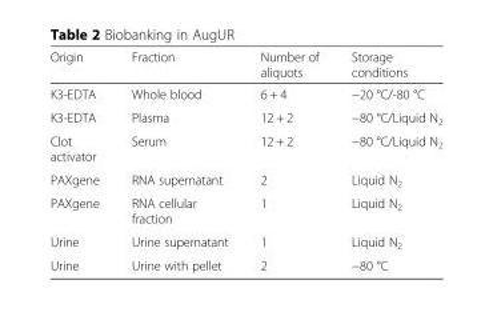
<table><thead><tr><td>Origin</td><td>Fraction</td><td>Number of aliquots</td><td>Storage conditions</td></tr></thead><tbody><tr><td>K3-EDTA</td><td>Whole blood</td><td>6 + 4</td><td>−20 °C/-80 °C</td></tr><tr><td>K3-EDTA</td><td>Plasma</td><td>12 + 2</td><td>−80 °C/Liquid N<sub>2</sub></td></tr><tr><td>Clot activator</td><td>Serum</td><td>12 + 2</td><td>−80 °C/Liquid N<sub>2</sub></td></tr><tr><td>PAXgene</td><td>RNA supernatant</td><td>2</td><td>Liquid N<sub>2</sub></td></tr><tr><td>PAXgene</td><td>RNA cellular fraction</td><td>1</td><td>Liquid N<sub>2</sub></td></tr><tr><td>Urine</td><td>Urine supernatant</td><td>1</td><td>Liquid N<sub>2</sub></td></tr><tr><td>Urine</td><td>Urine with pellet</td><td>2</td><td>−80 °C</td></tr></tbody></table>